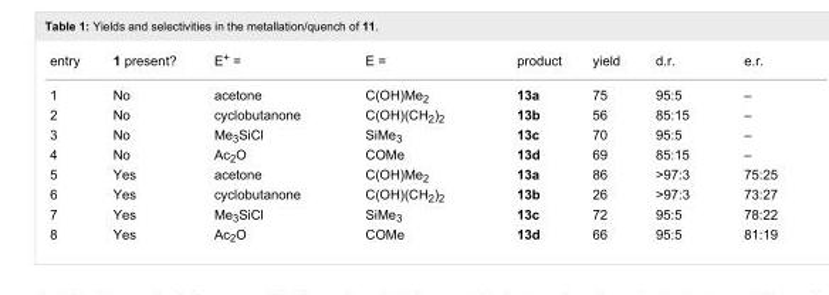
<table><tbody><tr><td>entry</td><td>1 present?</td><td>E+ =</td><td>E =</td><td>product</td><td>yield</td><td>d.r.</td><td>e.r.</td></tr><tr><td>1</td><td>No</td><td>acetone</td><td>C(OH)Me<sub>2</sub></td><td>13a</td><td>75</td><td>95:5</td><td>–</td></tr><tr><td>2</td><td>No</td><td>cyclobutanone</td><td>C(OH)(CH<sub>2</sub>)<sub>2</sub></td><td>13b</td><td>56</td><td>85:15</td><td>–</td></tr><tr><td>3</td><td>No</td><td>Me<sub>3</sub>SiCl</td><td>SiMe<sub>3</sub></td><td>13c</td><td>70</td><td>95:5</td><td>–</td></tr><tr><td>4</td><td>No</td><td>Ac<sub>2</sub>O</td><td>COMe</td><td>13d</td><td>69</td><td>85:15</td><td>–</td></tr><tr><td>5</td><td>Yes</td><td>acetone</td><td>C(OH)Me<sub>2</sub></td><td>13a</td><td>86</td><td>&gt;97:3</td><td>75:25</td></tr><tr><td>6</td><td>Yes</td><td>cyclobutanone</td><td>C(OH)(CH<sub>2</sub>)<sub>2</sub></td><td>13b</td><td>26</td><td>&gt;97:3</td><td>73:27</td></tr><tr><td>7</td><td>Yes</td><td>Me<sub>3</sub>SiCl</td><td>SiMe<sub>3</sub></td><td>13c</td><td>72</td><td>95:5</td><td>78:22</td></tr><tr><td>8</td><td>Yes</td><td>Ac<sub>2</sub>O</td><td>COMe</td><td>13d</td><td>66</td><td>95:5</td><td>81:19</td></tr></tbody></table>